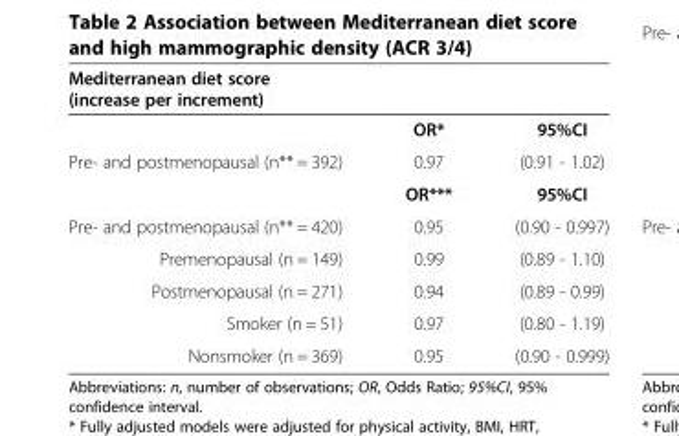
<table><thead><tr><td>Mediterranean diet score (increase per increment)</td><td></td><td></td></tr></thead><tbody><tr><td></td><td>OR*</td><td>95%CI</td></tr><tr><td rowspan="2">Pre- and postmenopausal (n** = 392)</td><td>0.97</td><td>(0.91 - 1.02)</td></tr><tr><td>OR***</td><td>95%CI</td></tr><tr><td>Pre- and postmenopausal (n** = 420)</td><td>0.95</td><td>(0.90 - 0.997)</td></tr><tr><td>Premenopausal (n = 149)</td><td>0.99</td><td>(0.89 - 1.10)</td></tr><tr><td>Postmenopausal (n = 271)</td><td>0.94</td><td>(0.89 - 0.99)</td></tr><tr><td>Smoker (n = 51)</td><td>0.97</td><td>(0.80 - 1.19)</td></tr><tr><td>Nonsmoker (n = 369)</td><td>0.95</td><td>(0.90 - 0.999)</td></tr></tbody></table>